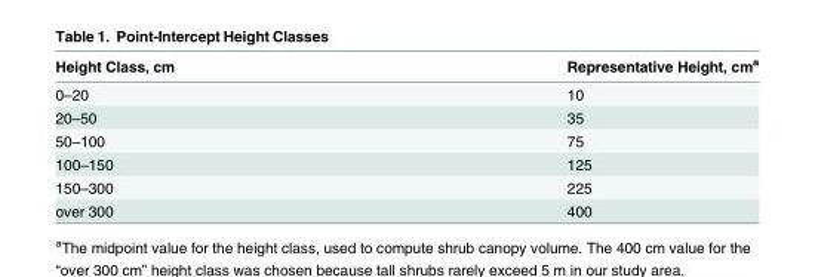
<table><thead><tr><td>Height Class, cm</td><td>Representative Height, cm<sup>a</sup></td></tr></thead><tbody><tr><td>0–20</td><td>10</td></tr><tr><td>20–50</td><td>35</td></tr><tr><td>50–100</td><td>75</td></tr><tr><td>100–150</td><td>125</td></tr><tr><td>150–300</td><td>225</td></tr><tr><td>over 300</td><td>400</td></tr></tbody></table>